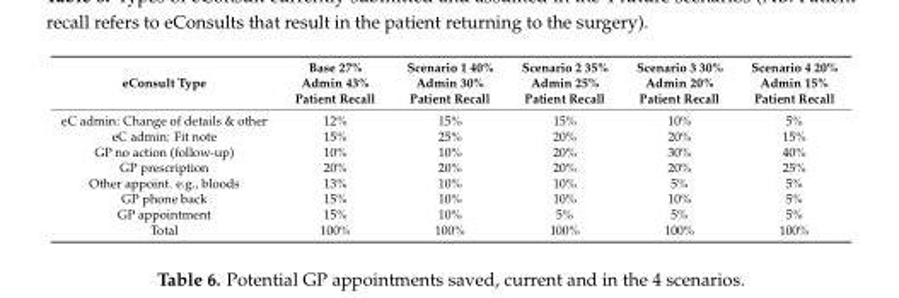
<table><thead><tr><td>eConsult Type</td><td>Base 27% Admin 43% Patient Recall</td><td>Scenario 1 40% Admin 30% Patient Recall</td><td>Scenario 2 35% Admin 25% Patient Recall</td><td>Scenario 3 30% Admin 20% Patient Recall</td><td>Scenario 4 20% Admin 15% Patient Recall</td></tr></thead><tbody><tr><td>eC admin: Change of details &amp; other</td><td>12%</td><td>15%</td><td>15%</td><td>10%</td><td>5%</td></tr><tr><td>eC admin: Fit note</td><td>15%</td><td>25%</td><td>20%</td><td>20%</td><td>15%</td></tr><tr><td>GP no action (follow-up)</td><td>10%</td><td>10%</td><td>20%</td><td>30%</td><td>40%</td></tr><tr><td>GP prescription</td><td>20%</td><td>20%</td><td>20%</td><td>20%</td><td>25%</td></tr><tr><td>Other appoint. e.g., bloods</td><td>13%</td><td>10%</td><td>10%</td><td>5%</td><td>5%</td></tr><tr><td>GP phone back</td><td>15%</td><td>10%</td><td>10%</td><td>10%</td><td>5%</td></tr><tr><td>GP appointment</td><td>15%</td><td>10%</td><td>5%</td><td>5%</td><td>5%</td></tr><tr><td>Total</td><td>100%</td><td>100%</td><td>100%</td><td>100%</td><td>100%</td></tr></tbody></table>